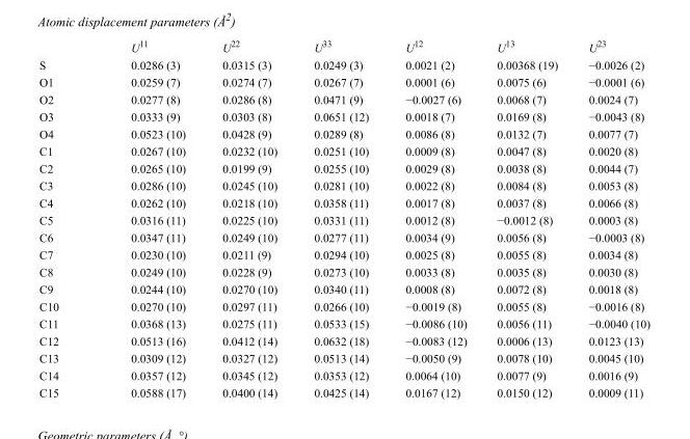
<table><thead><tr><td></td><td>U<sup>11</sup></td><td>U<sup>22</sup></td><td>U<sup>33</sup></td><td>U<sup>12</sup></td><td>U<sup>13</sup></td><td>U<sup>23</sup></td></tr></thead><tbody><tr><td>S</td><td>0.0286 (3)</td><td>0.0315 (3)</td><td>0.0249 (3)</td><td>0.0021 (2)</td><td>0.00368 (19)</td><td>−0.0026 (2)</td></tr><tr><td>O1</td><td>0.0259 (7)</td><td>0.0274 (7)</td><td>0.0267 (7)</td><td>0.0001 (6)</td><td>0.0075 (6)</td><td>−0.0001 (6)</td></tr><tr><td>O2</td><td>0.0277 (8)</td><td>0.0286 (8)</td><td>0.0471 (9)</td><td>−0.0027 (6)</td><td>0.0068 (7)</td><td>0.0024 (7)</td></tr><tr><td>O3</td><td>0.0333 (9)</td><td>0.0303 (8)</td><td>0.0651 (12)</td><td>0.0018 (7)</td><td>0.0169 (8)</td><td>−0.0043 (8)</td></tr><tr><td>O4</td><td>0.0523 (10)</td><td>0.0428 (9)</td><td>0.0289 (8)</td><td>0.0086 (8)</td><td>0.0132 (7)</td><td>0.0077 (7)</td></tr><tr><td>C1</td><td>0.0267 (10)</td><td>0.0232 (10)</td><td>0.0251 (10)</td><td>0.0009 (8)</td><td>0.0047 (8)</td><td>0.0020 (8)</td></tr><tr><td>C2</td><td>0.0265 (10)</td><td>0.0199 (9)</td><td>0.0255 (10)</td><td>0.0029 (8)</td><td>0.0038 (8)</td><td>0.0044 (7)</td></tr><tr><td>C3</td><td>0.0286 (10)</td><td>0.0245 (10)</td><td>0.0281 (10)</td><td>0.0022 (8)</td><td>0.0084 (8)</td><td>0.0053 (8)</td></tr><tr><td>C4</td><td>0.0262 (10)</td><td>0.0218 (10)</td><td>0.0358 (11)</td><td>0.0017 (8)</td><td>0.0037 (8)</td><td>0.0066 (8)</td></tr><tr><td>C5</td><td>0.0316 (11)</td><td>0.0225 (10)</td><td>0.0331 (11)</td><td>0.0012 (8)</td><td>−0.0012 (8)</td><td>0.0003 (8)</td></tr><tr><td>C6</td><td>0.0347 (11)</td><td>0.0249 (10)</td><td>0.0277 (11)</td><td>0.0034 (9)</td><td>0.0056 (8)</td><td>−0.0003 (8)</td></tr><tr><td>C7</td><td>0.0230 (10)</td><td>0.0211 (9)</td><td>0.0294 (10)</td><td>0.0025 (8)</td><td>0.0055 (8)</td><td>0.0034 (8)</td></tr><tr><td>C8</td><td>0.0249 (10)</td><td>0.0228 (9)</td><td>0.0273 (10)</td><td>0.0033 (8)</td><td>0.0035 (8)</td><td>0.0030 (8)</td></tr><tr><td>C9</td><td>0.0244 (10)</td><td>0.0270 (10)</td><td>0.0340 (11)</td><td>0.0008 (8)</td><td>0.0072 (8)</td><td>0.0018 (8)</td></tr><tr><td>C10</td><td>0.0270 (10)</td><td>0.0297 (11)</td><td>0.0266 (10)</td><td>−0.0019 (8)</td><td>0.0055 (8)</td><td>−0.0016 (8)</td></tr><tr><td>C11</td><td>0.0368 (13)</td><td>0.0275 (11)</td><td>0.0533 (15)</td><td>−0.0086 (10)</td><td>0.0056 (11)</td><td>−0.0040 (10)</td></tr><tr><td>C12</td><td>0.0513 (16)</td><td>0.0412 (14)</td><td>0.0632 (18)</td><td>−0.0083 (12)</td><td>0.0006 (13)</td><td>0.0123 (13)</td></tr><tr><td>C13</td><td>0.0309 (12)</td><td>0.0327 (12)</td><td>0.0513 (14)</td><td>−0.0050 (9)</td><td>0.0078 (10)</td><td>0.0045 (10)</td></tr><tr><td>C14</td><td>0.0357 (12)</td><td>0.0345 (12)</td><td>0.0353 (12)</td><td>0.0064 (10)</td><td>0.0077 (9)</td><td>0.0016 (9)</td></tr><tr><td>C15</td><td>0.0588 (17)</td><td>0.0400 (14)</td><td>0.0425 (14)</td><td>0.0167 (12)</td><td>0.0150 (12)</td><td>0.0009 (11)</td></tr></tbody></table>